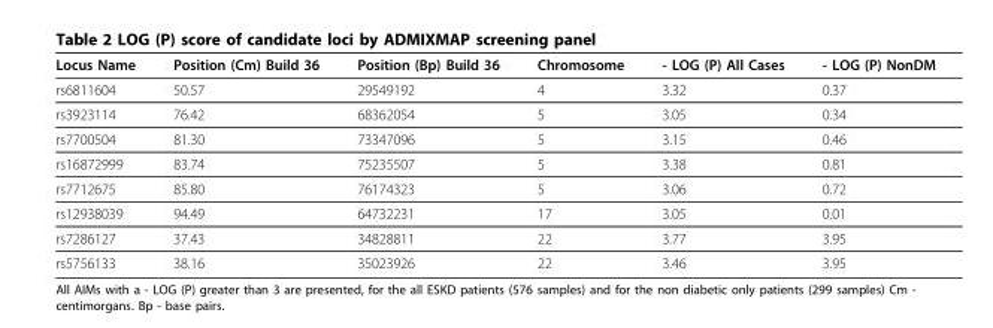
<table><thead><tr><td>Locus Name</td><td>Position (Cm) Build 36</td><td>Position (Bp) Build 36</td><td>Chromosome</td><td>- LOG (P) All Cases</td><td>- LOG (P) NonDM</td></tr></thead><tbody><tr><td>rs6811604</td><td>50.57</td><td>29549192</td><td>4</td><td>3.32</td><td>0.37</td></tr><tr><td>rs3923114</td><td>76.42</td><td>68362054</td><td>5</td><td>3.05</td><td>0.34</td></tr><tr><td>rs7700504</td><td>81.30</td><td>73347096</td><td>5</td><td>3.15</td><td>0.46</td></tr><tr><td>rs16872999</td><td>83.74</td><td>75235507</td><td>5</td><td>3.38</td><td>0.81</td></tr><tr><td>rs7712675</td><td>85.80</td><td>76174323</td><td>5</td><td>3.06</td><td>0.72</td></tr><tr><td>rs12938039</td><td>94.49</td><td>64732231</td><td>17</td><td>3.05</td><td>0.01</td></tr><tr><td>rs7286127</td><td>37.43</td><td>34828811</td><td>22</td><td>3.77</td><td>3.95</td></tr><tr><td>rs5756133</td><td>38.16</td><td>35023926</td><td>22</td><td>3.46</td><td>3.95</td></tr></tbody></table>